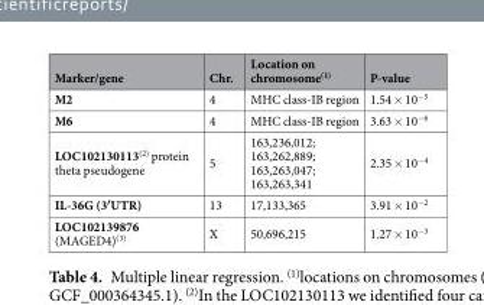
<table><thead><tr><td>Marker/gene</td><td>Chr.</td><td>Location on chromosome<sup>(1)</sup></td><td>P-value</td></tr></thead><tbody><tr><td>M2</td><td>4</td><td>MHC class-IB region</td><td>1.54 × 10<sup>−5</sup></td></tr><tr><td>M6</td><td>4</td><td>MHC class-IB region</td><td>3.63 × 10<sup>−6</sup></td></tr><tr><td>LOC102130113<sup>(2)</sup> protein theta pseudogene</td><td>5</td><td>163,236,012; 163,262,889; 163,263,047; 163,263,341</td><td>2.35 × 10<sup>−4</sup></td></tr><tr><td>IL-36G (3′UTR)</td><td>13</td><td>17,133,365</td><td>3.91 × 10<sup>−2</sup></td></tr><tr><td>LOC102139876 (MAGED4)<sup>(3)</sup></td><td>X</td><td>50,696,215</td><td>1.27 × 10<sup>−3</sup></td></tr></tbody></table>